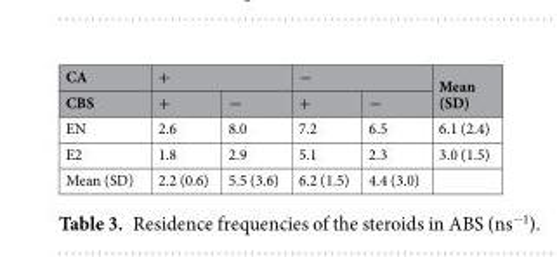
<table><thead><tr><td rowspan="2">CA CBS</td><td colspan="2">+</td><td colspan="2">−</td><td rowspan="2">Mean (SD)</td></tr><tr><td>+</td><td>−</td><td>+</td><td>−</td></tr></thead><tbody><tr><td>EN</td><td>2.6</td><td>8.0</td><td>7.2</td><td>6.5</td><td>6.1 (2.4)</td></tr><tr><td>E2</td><td>1.8</td><td>2.9</td><td>5.1</td><td>2.3</td><td>3.0 (1.5)</td></tr><tr><td>Mean (SD)</td><td>2.2 (0.6)</td><td>5.5 (3.6)</td><td>6.2 (1.5)</td><td>4.4 (3.0)</td><td></td></tr></tbody></table>